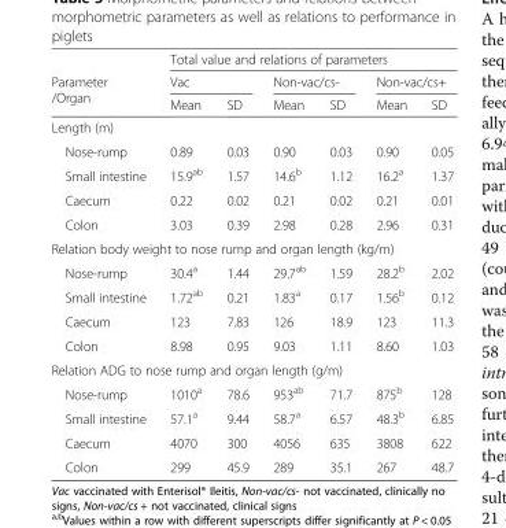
<table><thead><tr><td rowspan="3">Parameter /Organ</td><td colspan="6">Total value and relations of parameters</td></tr><tr><td colspan="2">Vac</td><td colspan="2">Non-vac/cs-</td><td colspan="2">Non-vac/cs+</td></tr><tr><td>Mean</td><td>SD</td><td>Mean</td><td>SD</td><td>Mean</td><td>SD</td></tr></thead><tbody><tr><td colspan="7">Length (m)</td></tr><tr><td>Nose-rump</td><td>0.89</td><td>0.03</td><td>0.90</td><td>0.03</td><td>0.90</td><td>0.05</td></tr><tr><td>Small intestine</td><td>15.9<sup>ab</sup></td><td>1.57</td><td>14.6<sup>b</sup></td><td>1.12</td><td>16.2<sup>a</sup></td><td>1.37</td></tr><tr><td>Caecum</td><td>0.22</td><td>0.02</td><td>0.21</td><td>0.02</td><td>0.21</td><td>0.01</td></tr><tr><td>Colon</td><td>3.03</td><td>0.39</td><td>2.98</td><td>0.28</td><td>2.96</td><td>0.31</td></tr><tr><td colspan="7">Relation body weight to nose rump and organ length (kg/m)</td></tr><tr><td>Nose-rump</td><td>30.4<sup>a</sup></td><td>1.44</td><td>29.7<sup>ab</sup></td><td>1.59</td><td>28.2<sup>b</sup></td><td>2.02</td></tr><tr><td>Small intestine</td><td>1.72<sup>ab</sup></td><td>0.21</td><td>1.83<sup>a</sup></td><td>0.17</td><td>1.56<sup>b</sup></td><td>0.12</td></tr><tr><td>Caecum</td><td>123</td><td>7.83</td><td>126</td><td>18.9</td><td>123</td><td>11.3</td></tr><tr><td>Colon</td><td>8.98</td><td>0.95</td><td>9.03</td><td>1.11</td><td>8.60</td><td>1.03</td></tr><tr><td colspan="7">Relation ADG to nose rump and organ length (g/m)</td></tr><tr><td>Nose-rump</td><td>1010<sup>a</sup></td><td>78.6</td><td>953<sup>ab</sup></td><td>71.7</td><td>875<sup>b</sup></td><td>128</td></tr><tr><td>Small intestine</td><td>57.1<sup>a</sup></td><td>9.44</td><td>58.7<sup>a</sup></td><td>6.57</td><td>48.3<sup>b</sup></td><td>6.85</td></tr><tr><td>Caecum</td><td>4070</td><td>300</td><td>4056</td><td>635</td><td>3808</td><td>622</td></tr><tr><td>Colon</td><td>299</td><td>45.9</td><td>289</td><td>35.1</td><td>267</td><td>48.7</td></tr></tbody></table>